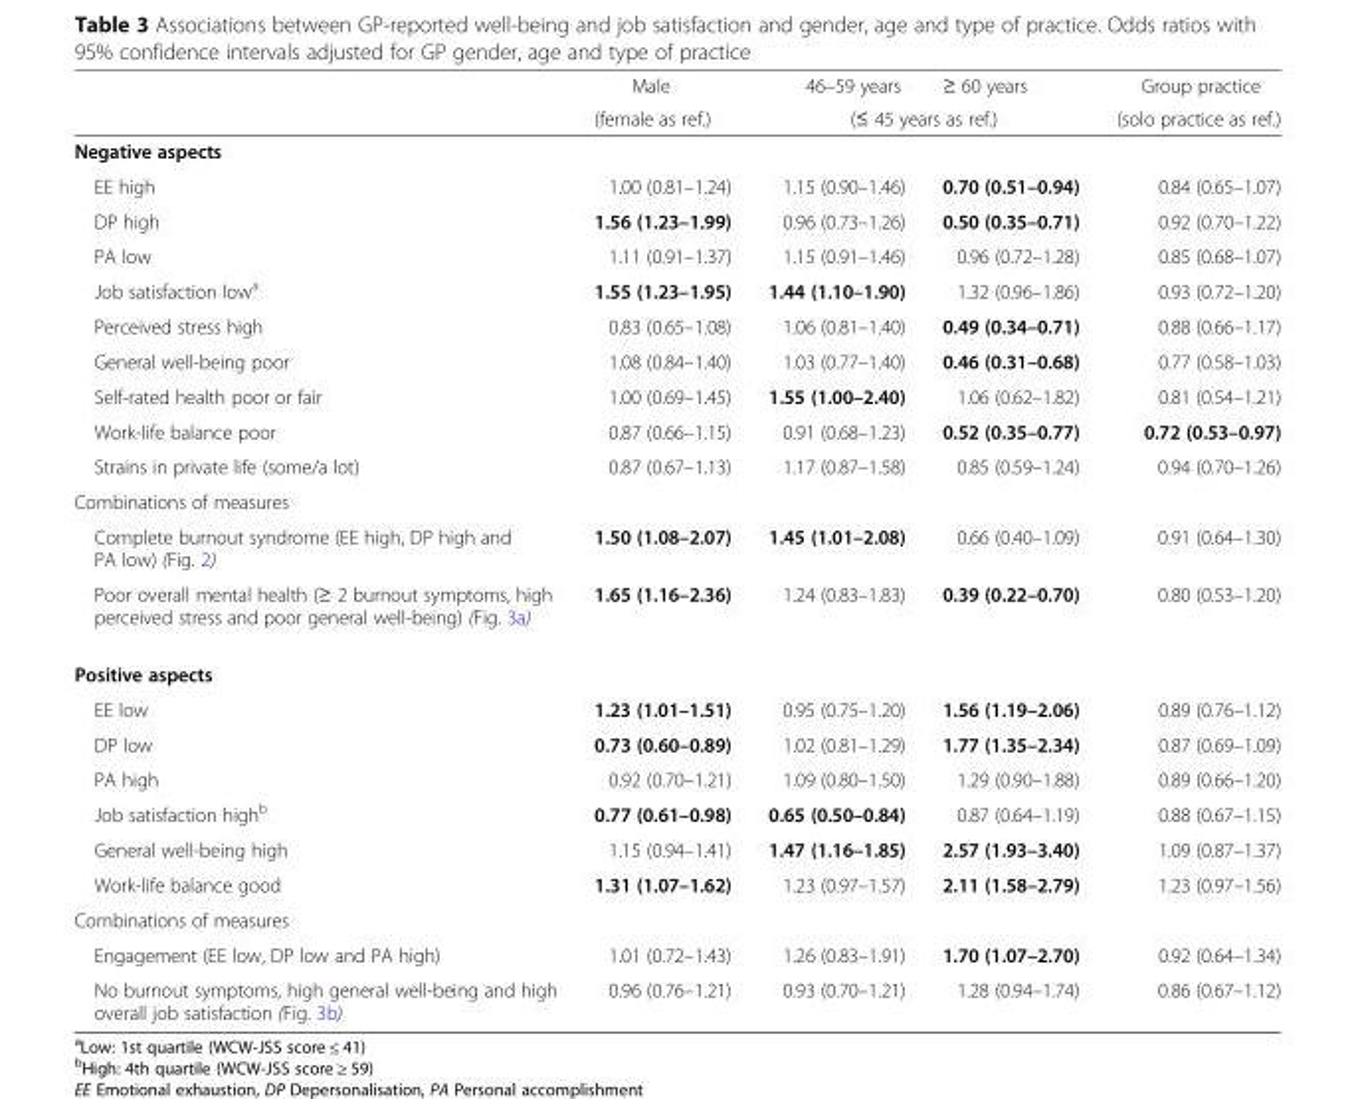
<table><thead><tr><td rowspan="2"></td><td rowspan="2">Male (female as ref.)</td><td>46–59 years</td><td>≥ 60 years</td><td rowspan="2">Group practice (solo practice as ref.)</td></tr><tr><td colspan="2">(≤ 45 years as ref.)</td></tr></thead><tbody><tr><td colspan="5">Negative aspects</td></tr><tr><td>EE high</td><td>1.00 (0.81–1.24)</td><td>1.15 (0.90–1.46)</td><td>0.70 (0.51–0.94)</td><td>0.84 (0.65–1.07)</td></tr><tr><td>DP high</td><td>1.56 (1.23–1.99)</td><td>0.96 (0.73–1.26)</td><td>0.50 (0.35–0.71)</td><td>0.92 (0.70–1.22)</td></tr><tr><td>PA low</td><td>1.11 (0.91–1.37)</td><td>1.15 (0.91–1.46)</td><td>0.96 (0.72–1.28)</td><td>0.85 (0.68–1.07)</td></tr><tr><td>Job satisfaction low<sup>a</sup></td><td>1.55 (1.23–1.95)</td><td>1.44 (1.10–1.90)</td><td>1.32 (0.96–1.86)</td><td>0.93 (0.72–1.20)</td></tr><tr><td>Perceived stress high</td><td>0.83 (0.65–1.08)</td><td>1.06 (0.81–1.40)</td><td>0.49 (0.34–0.71)</td><td>0.88 (0.66–1.17)</td></tr><tr><td>General well-being poor</td><td>1.08 (0.84–1.40)</td><td>1.03 (0.77–1.40)</td><td>0.46 (0.31–0.68)</td><td>0.77 (0.58–1.03)</td></tr><tr><td>Self-rated health poor or fair</td><td>1.00 (0.69–1.45)</td><td>1.55 (1.00–2.40)</td><td>1.06 (0.62–1.82)</td><td>0.81 (0.54–1.21)</td></tr><tr><td>Work-life balance poor</td><td>0.87 (0.66–1.15)</td><td>0.91 (0.68–1.23)</td><td>0.52 (0.35–0.77)</td><td>0.72 (0.53–0.97)</td></tr><tr><td>Strains in private life (some/a lot)</td><td>0.87 (0.67–1.13)</td><td>1.17 (0.87–1.58)</td><td>0.85 (0.59–1.24)</td><td>0.94 (0.70–1.26)</td></tr><tr><td colspan="5">Combinations of measures</td></tr><tr><td>Complete burnout syndrome (EE high, DP high and PA low) (Fig. 2)</td><td>1.50 (1.08–2.07)</td><td>1.45 (1.01–2.08)</td><td>0.66 (0.40–1.09)</td><td>0.91 (0.64–1.30)</td></tr><tr><td>Poor overall mental health (≥ 2 burnout symptoms, high perceived stress and poor general well-being) (Fig. 3a)</td><td>1.65 (1.16–2.36)</td><td>1.24 (0.83–1.83)</td><td>0.39 (0.22–0.70)</td><td>0.80 (0.53–1.20)</td></tr><tr><td colspan="5">Positive aspects</td></tr><tr><td>EE low</td><td>1.23 (1.01–1.51)</td><td>0.95 (0.75–1.20)</td><td>1.56 (1.19–2.06)</td><td>0.89 (0.76–1.12)</td></tr><tr><td>DP low</td><td>0.73 (0.60–0.89)</td><td>1.02 (0.81–1.29)</td><td>1.77 (1.35–2.34)</td><td>0.87 (0.69–1.09)</td></tr><tr><td>PA high</td><td>0.92 (0.70–1.21)</td><td>1.09 (0.80–1.50)</td><td>1.29 (0.90–1.88)</td><td>0.89 (0.66–1.20)</td></tr><tr><td>Job satisfaction high<sup>b</sup></td><td>0.77 (0.61–0.98)</td><td>0.65 (0.50–0.84)</td><td>0.87 (0.64–1.19)</td><td>0.88 (0.67–1.15)</td></tr><tr><td>General well-being high</td><td>1.15 (0.94–1.41)</td><td>1.47 (1.16–1.85)</td><td>2.57 (1.93–3.40)</td><td>1.09 (0.87–1.37)</td></tr><tr><td>Work-life balance good</td><td>1.31 (1.07–1.62)</td><td>1.23 (0.97–1.57)</td><td>2.11 (1.58–2.79)</td><td>1.23 (0.97–1.56)</td></tr><tr><td colspan="5">Combinations of measures</td></tr><tr><td>Engagement (EE low, DP low and PA high)</td><td>1.01 (0.72–1.43)</td><td>1.26 (0.83–1.91)</td><td>1.70 (1.07–2.70)</td><td>0.92 (0.64–1.34)</td></tr><tr><td>No burnout symptoms, high general well-being and high overall job satisfaction (Fig. 3b)</td><td>0.96 (0.76–1.21)</td><td>0.93 (0.70–1.21)</td><td>1.28 (0.94–1.74)</td><td>0.86 (0.67–1.12)</td></tr></tbody></table>